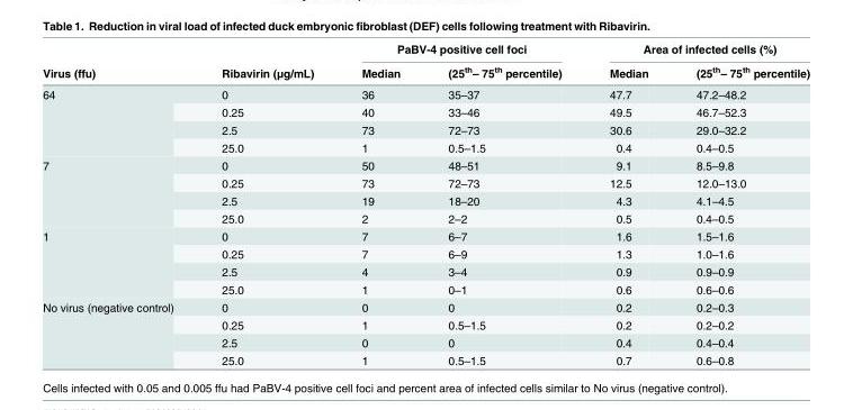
<table><thead><tr><td rowspan="2">Virus (ffu)</td><td rowspan="2">Ribavirin (μg/mL)</td><td colspan="2">PaBV-4 positive cell foci</td><td colspan="2">Area of infected cells (%)</td></tr><tr><td>Median</td><td>(25<sup>th</sup>– 75<sup>th</sup> percentile)</td><td>Median</td><td>(25<sup>th</sup>– 75<sup>th</sup> percentile)</td></tr></thead><tbody><tr><td rowspan="4">64</td><td>0</td><td>36</td><td>35–37</td><td>47.7</td><td>47.2–48.2</td></tr><tr><td>0.25</td><td>40</td><td>33–46</td><td>49.5</td><td>46.7–52.3</td></tr><tr><td>2.5</td><td>73</td><td>72–73</td><td>30.6</td><td>29.0–32.2</td></tr><tr><td>25.0</td><td>1</td><td>0.5–1.5</td><td>0.4</td><td>0.4–0.5</td></tr><tr><td rowspan="4">7</td><td>0</td><td>50</td><td>48–51</td><td>9.1</td><td>8.5–9.8</td></tr><tr><td>0.25</td><td>73</td><td>72–73</td><td>12.5</td><td>12.0–13.0</td></tr><tr><td>2.5</td><td>19</td><td>18–20</td><td>4.3</td><td>4.1–4.5</td></tr><tr><td>25.0</td><td>2</td><td>2–2</td><td>0.5</td><td>0.4–0.5</td></tr><tr><td rowspan="4">1</td><td>0</td><td>7</td><td>6–7</td><td>1.6</td><td>1.5–1.6</td></tr><tr><td>0.25</td><td>7</td><td>6–9</td><td>1.3</td><td>1.0–1.6</td></tr><tr><td>2.5</td><td>4</td><td>3–4</td><td>0.9</td><td>0.9–0.9</td></tr><tr><td>25.0</td><td>1</td><td>0–1</td><td>0.6</td><td>0.6–0.6</td></tr><tr><td rowspan="4">No virus (negative control)</td><td>0</td><td>0</td><td>0</td><td>0.2</td><td>0.2–0.3</td></tr><tr><td>0.25</td><td>1</td><td>0.5–1.5</td><td>0.2</td><td>0.2–0.2</td></tr><tr><td>2.5</td><td>0</td><td>0</td><td>0.4</td><td>0.4–0.4</td></tr><tr><td>25.0</td><td>1</td><td>0.5–1.5</td><td>0.7</td><td>0.6–0.8</td></tr></tbody></table>